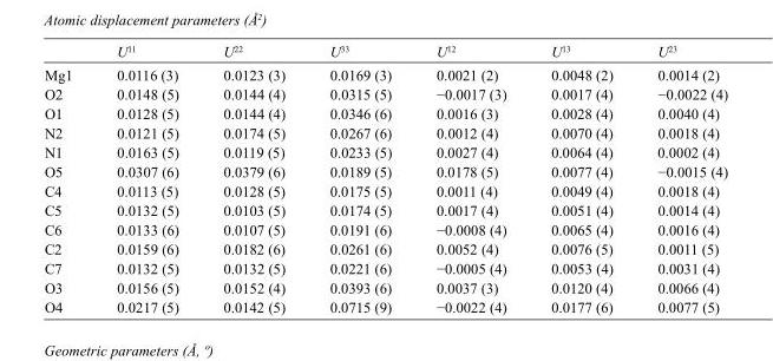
<table><thead><tr><td></td><td>U<sup>11</sup></td><td>U<sup>22</sup></td><td>U<sup>33</sup></td><td>U<sup>12</sup></td><td>U<sup>13</sup></td><td>U<sup>23</sup></td></tr></thead><tbody><tr><td>Mg1</td><td>0.0116 (3)</td><td>0.0123 (3)</td><td>0.0169 (3)</td><td>0.0021 (2)</td><td>0.0048 (2)</td><td>0.0014 (2)</td></tr><tr><td>O2</td><td>0.0148 (5)</td><td>0.0144 (4)</td><td>0.0315 (5)</td><td>−0.0017 (3)</td><td>0.0017 (4)</td><td>−0.0022 (4)</td></tr><tr><td>O1</td><td>0.0128 (5)</td><td>0.0144 (4)</td><td>0.0346 (6)</td><td>0.0016 (3)</td><td>0.0028 (4)</td><td>0.0040 (4)</td></tr><tr><td>N2</td><td>0.0121 (5)</td><td>0.0174 (5)</td><td>0.0267 (6)</td><td>0.0012 (4)</td><td>0.0070 (4)</td><td>0.0018 (4)</td></tr><tr><td>N1</td><td>0.0163 (5)</td><td>0.0119 (5)</td><td>0.0233 (5)</td><td>0.0027 (4)</td><td>0.0064 (4)</td><td>0.0002 (4)</td></tr><tr><td>O5</td><td>0.0307 (6)</td><td>0.0379 (6)</td><td>0.0189 (5)</td><td>0.0178 (5)</td><td>0.0077 (4)</td><td>−0.0015 (4)</td></tr><tr><td>C4</td><td>0.0113 (5)</td><td>0.0128 (5)</td><td>0.0175 (5)</td><td>0.0011 (4)</td><td>0.0049 (4)</td><td>0.0018 (4)</td></tr><tr><td>C5</td><td>0.0132 (5)</td><td>0.0103 (5)</td><td>0.0174 (5)</td><td>0.0017 (4)</td><td>0.0051 (4)</td><td>0.0014 (4)</td></tr><tr><td>C6</td><td>0.0133 (6)</td><td>0.0107 (5)</td><td>0.0191 (6)</td><td>−0.0008 (4)</td><td>0.0065 (4)</td><td>0.0016 (4)</td></tr><tr><td>C2</td><td>0.0159 (6)</td><td>0.0182 (6)</td><td>0.0261 (6)</td><td>0.0052 (4)</td><td>0.0076 (5)</td><td>0.0011 (5)</td></tr><tr><td>C7</td><td>0.0132 (5)</td><td>0.0132 (5)</td><td>0.0221 (6)</td><td>−0.0005 (4)</td><td>0.0053 (4)</td><td>0.0031 (4)</td></tr><tr><td>O3</td><td>0.0156 (5)</td><td>0.0152 (4)</td><td>0.0393 (6)</td><td>0.0037 (3)</td><td>0.0120 (4)</td><td>0.0066 (4)</td></tr><tr><td>O4</td><td>0.0217 (5)</td><td>0.0142 (5)</td><td>0.0715 (9)</td><td>−0.0022 (4)</td><td>0.0177 (6)</td><td>0.0077 (5)</td></tr></tbody></table>